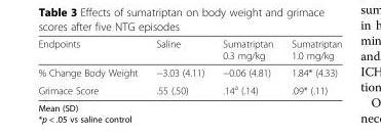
<table><thead><tr><td>Endpoints</td><td>Saline</td><td>Sumatriptan 0.3 mg/kg</td><td>Sumatriptan 1.0 mg/kg</td></tr></thead><tbody><tr><td>% Change Body Weight</td><td>−3.03 (4.11)</td><td>−0.06 (4.81)</td><td>1.84* (4.33)</td></tr><tr><td>Grimace Score</td><td>.55 (.50)</td><td>.14<sup>a</sup> (.14)</td><td>.09* (.11)</td></tr></tbody></table>